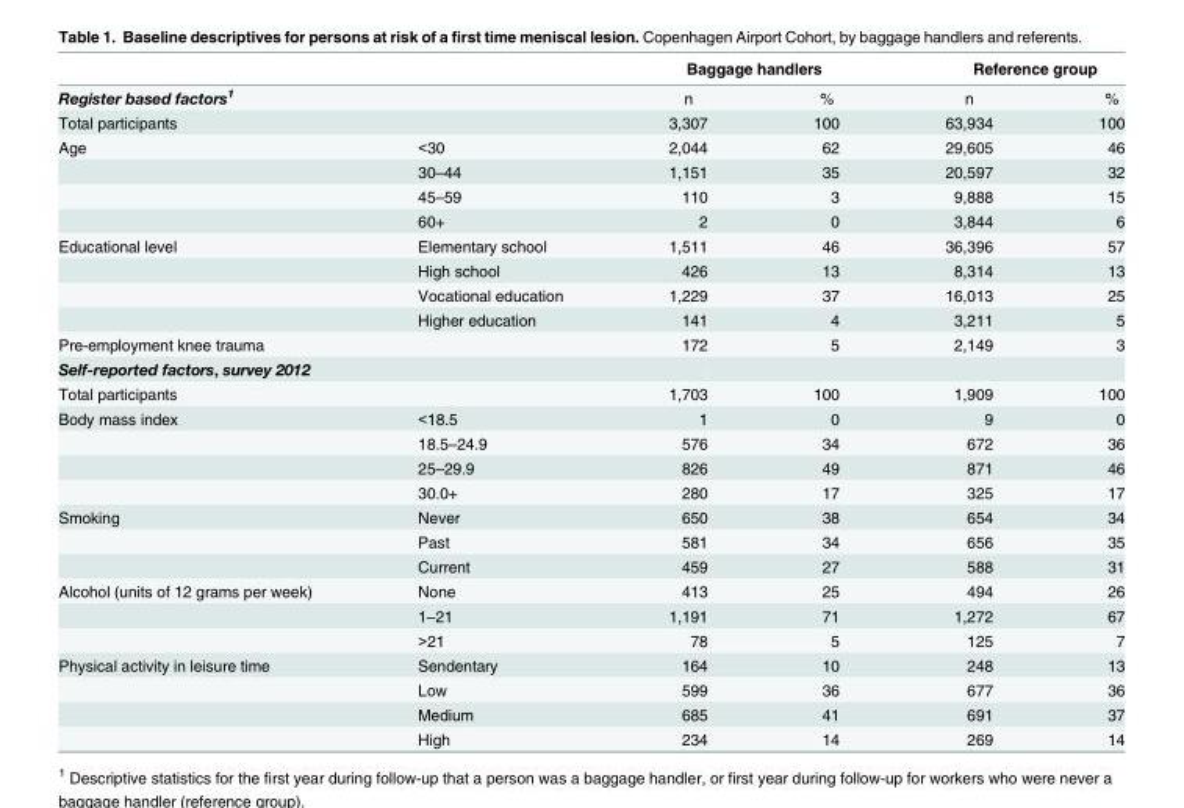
<table><thead><tr><td rowspan="2">Register based factors<sup>1</sup></td><td rowspan="2"></td><td colspan="2">Baggage handlers</td><td colspan="2">Reference group</td></tr><tr><td>n</td><td>%</td><td>n</td><td>%</td></tr></thead><tbody><tr><td>Total participants</td><td></td><td>3,307</td><td>100</td><td>63,934</td><td>100</td></tr><tr><td rowspan="4">Age</td><td>&lt;30</td><td>2,044</td><td>62</td><td>29,605</td><td>46</td></tr><tr><td>30–44</td><td>1,151</td><td>35</td><td>20,597</td><td>32</td></tr><tr><td>45–59</td><td>110</td><td>3</td><td>9,888</td><td>15</td></tr><tr><td>60+</td><td>2</td><td>0</td><td>3,844</td><td>6</td></tr><tr><td rowspan="4">Educational level</td><td>Elementary school</td><td>1,511</td><td>46</td><td>36,396</td><td>57</td></tr><tr><td>High school</td><td>426</td><td>13</td><td>8,314</td><td>13</td></tr><tr><td>Vocational education</td><td>1,229</td><td>37</td><td>16,013</td><td>25</td></tr><tr><td>Higher education</td><td>141</td><td>4</td><td>3,211</td><td>5</td></tr><tr><td>Pre-employment knee trauma</td><td></td><td>172</td><td>5</td><td>2,149</td><td>3</td></tr><tr><td colspan="6">Self-reported factors, survey 2012</td></tr><tr><td>Total participants</td><td></td><td>1,703</td><td>100</td><td>1,909</td><td>100</td></tr><tr><td rowspan="4">Body mass index</td><td>&lt;18.5</td><td>1</td><td>0</td><td>9</td><td>0</td></tr><tr><td>18.5–24.9</td><td>576</td><td>34</td><td>672</td><td>36</td></tr><tr><td>25–29.9</td><td>826</td><td>49</td><td>871</td><td>46</td></tr><tr><td>30.0+</td><td>280</td><td>17</td><td>325</td><td>17</td></tr><tr><td rowspan="3">Smoking</td><td>Never</td><td>650</td><td>38</td><td>654</td><td>34</td></tr><tr><td>Past</td><td>581</td><td>34</td><td>656</td><td>35</td></tr><tr><td>Current</td><td>459</td><td>27</td><td>588</td><td>31</td></tr><tr><td rowspan="3">Alcohol (units of 12 grams per week)</td><td>None</td><td>413</td><td>25</td><td>494</td><td>26</td></tr><tr><td>1–21</td><td>1,191</td><td>71</td><td>1,272</td><td>67</td></tr><tr><td>&gt;21</td><td>78</td><td>5</td><td>125</td><td>7</td></tr><tr><td rowspan="4">Physical activity in leisure time</td><td>Sendentary</td><td>164</td><td>10</td><td>248</td><td>13</td></tr><tr><td>Low</td><td>599</td><td>36</td><td>677</td><td>36</td></tr><tr><td>Medium</td><td>685</td><td>41</td><td>691</td><td>37</td></tr><tr><td>High</td><td>234</td><td>14</td><td>269</td><td>14</td></tr></tbody></table>